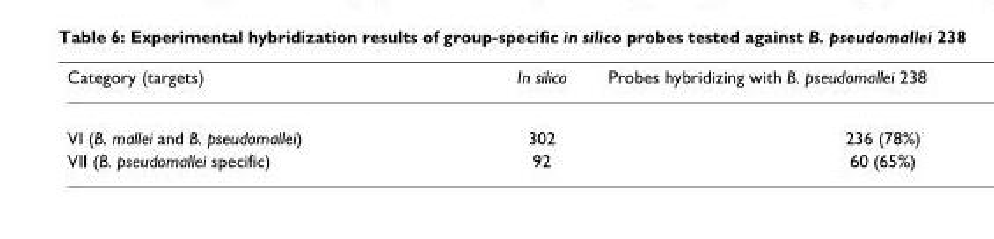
<table><thead><tr><td>Category (targets)</td><td>In silico</td><td>Probes hybridizing with B. pseudomallei 238</td></tr></thead><tbody><tr><td>VI (B. mallei and B. pseudomallei)</td><td>302</td><td>236 (78%)</td></tr><tr><td>VII (B. pseudomallei specific)</td><td>92</td><td>60 (65%)</td></tr></tbody></table>